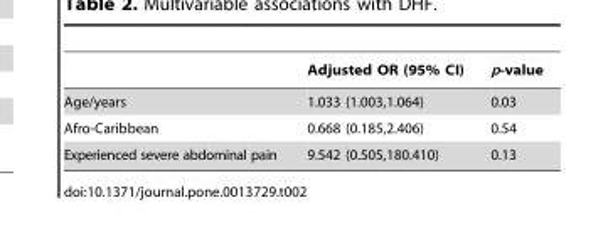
<table><thead><tr><td></td><td>Adjusted OR (95% CI)</td><td>p-value</td></tr></thead><tbody><tr><td>Age/years</td><td>1.033 (1.003,1.064)</td><td>0.03</td></tr><tr><td>Afro-Caribbean</td><td>0.668 (0.185,2.406)</td><td>0.54</td></tr><tr><td>Experienced severe abdominal pain</td><td>9.542 (0.505,180.410)</td><td>0.13</td></tr></tbody></table>